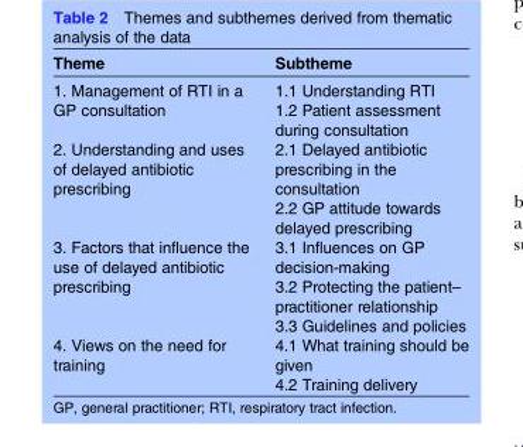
<table><thead><tr><td>Theme</td><td>Subtheme</td></tr></thead><tbody><tr><td>1. Management of RTI in a GP consultation</td><td>1.1 Understanding RTI 1.2 Patient assessment during consultation</td></tr><tr><td>2. Understanding and uses of delayed antibiotic prescribing</td><td>2.1 Delayed antibiotic prescribing in the consultation 2.2 GP attitude towards delayed prescribing</td></tr><tr><td>3. Factors that influence the use of delayed antibiotic prescribing</td><td>3.1 Influences on GP decision-making 3.2 Protecting the patient– practitioner relationship 3.3 Guidelines and policies</td></tr><tr><td>4. Views on the need for training</td><td>4.1 What training should be given 4.2 Training delivery</td></tr></tbody></table>